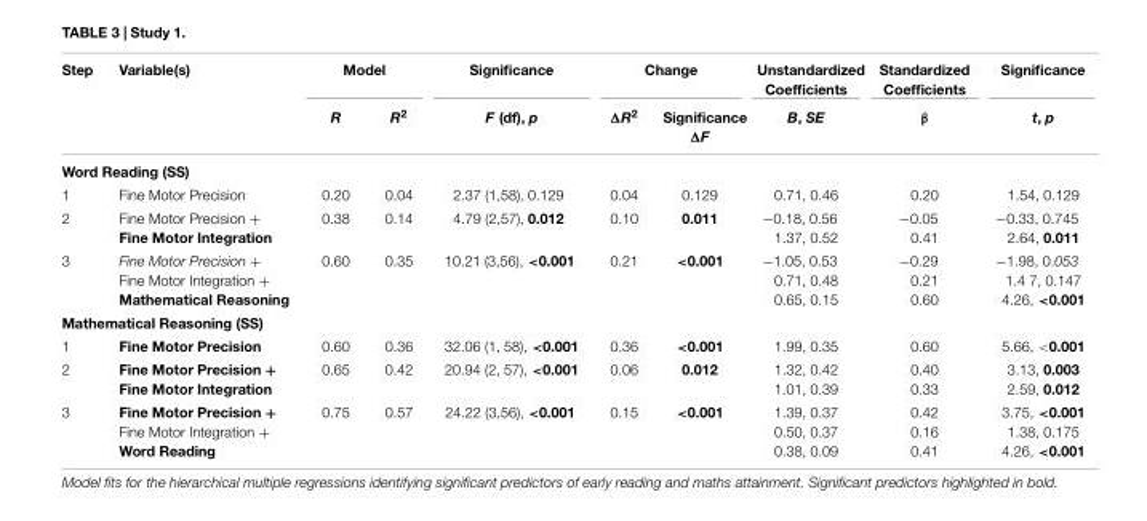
<table><thead><tr><td rowspan="2">Step</td><td rowspan="2">Variable(s)</td><td colspan="2">Model</td><td rowspan="2">Significance F (df), p</td><td colspan="2">Change</td><td rowspan="2">Unstandardized Coefficients B, SE</td><td rowspan="2">Standardized Coefficients β</td><td rowspan="2">Significance t, p</td></tr><tr><td>R</td><td>R<sup>2</sup></td><td>ΔR<sup>2</sup></td><td>Significance ΔF</td></tr></thead><tbody><tr><td colspan="10">Word Reading (SS)</td></tr><tr><td>1</td><td>Fine Motor Precision</td><td>0.20</td><td>0.04</td><td>2.37 (1,58), 0.129</td><td>0.04</td><td>0.129</td><td>0.71, 0.46</td><td>0.20</td><td>1.54, 0.129</td></tr><tr><td>2</td><td>Fine Motor Precision + Fine Motor Integration</td><td>0.38</td><td>0.14</td><td>4.79 (2,57), 0.012</td><td>0.10</td><td>0.011</td><td>−0.18, 0.56 1.37, 0.52</td><td>−0.05 0.41</td><td>−0.33, 0.745 2.64, 0.011</td></tr><tr><td>3</td><td>Fine Motor Precision + Fine Motor Integration + Mathematical Reasoning</td><td>0.60</td><td>0.35</td><td>10.21 (3,56), &lt;0.001</td><td>0.21</td><td>&lt;0.001</td><td>−1.05, 0.53 0.71, 0.48 0.65, 0.15</td><td>−0.29 0.21 0.60</td><td>−1.98, 0.053 1.4 7, 0.147 4.26, &lt;0.001</td></tr><tr><td colspan="10">Mathematical Reasoning (SS)</td></tr><tr><td>1</td><td>Fine Motor Precision</td><td>0.60</td><td>0.36</td><td>32.06 (1, 58), &lt;0.001</td><td>0.36</td><td>&lt;0.001</td><td>1.99, 0.35</td><td>0.60</td><td>5.66, &lt;0.001</td></tr><tr><td>2</td><td>Fine Motor Precision + Fine Motor Integration</td><td>0.65</td><td>0.42</td><td>20.94 (2, 57), &lt;0.001</td><td>0.06</td><td>0.012</td><td>1.32, 0.42 1.01, 0.39</td><td>0.40 0.33</td><td>3.13, 0.003 2.59, 0.012</td></tr><tr><td>3</td><td>Fine Motor Precision + Fine Motor Integration + Word Reading</td><td>0.75</td><td>0.57</td><td>24.22 (3,56), &lt;0.001</td><td>0.15</td><td>&lt;0.001</td><td>1.39, 0.37 0.50, 0.37 0.38, 0.09</td><td>0.42 0.16 0.41</td><td>3.75, &lt;0.001 1.38, 0.175 4.26, &lt;0.001</td></tr></tbody></table>